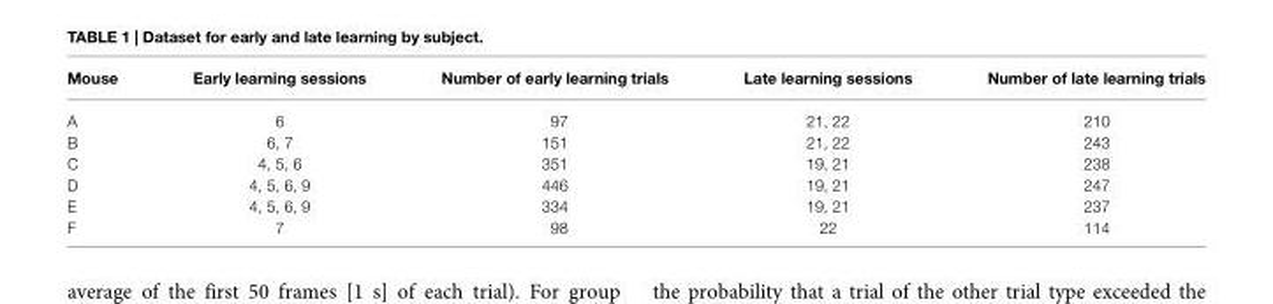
<table><thead><tr><td>Mouse</td><td>Early learning sessions</td><td>Number of early learning trials</td><td>Late learning sessions</td><td>Number of late learning trials</td></tr></thead><tbody><tr><td>A</td><td>6</td><td>97</td><td>21, 22</td><td>210</td></tr><tr><td>B</td><td>6, 7</td><td>151</td><td>21, 22</td><td>243</td></tr><tr><td>C</td><td>4, 5, 6</td><td>351</td><td>19, 21</td><td>238</td></tr><tr><td>D</td><td>4, 5, 6, 9</td><td>446</td><td>19, 21</td><td>247</td></tr><tr><td>E</td><td>4, 5, 6, 9</td><td>334</td><td>19, 21</td><td>237</td></tr><tr><td>F</td><td>7</td><td>98</td><td>22</td><td>114</td></tr></tbody></table>